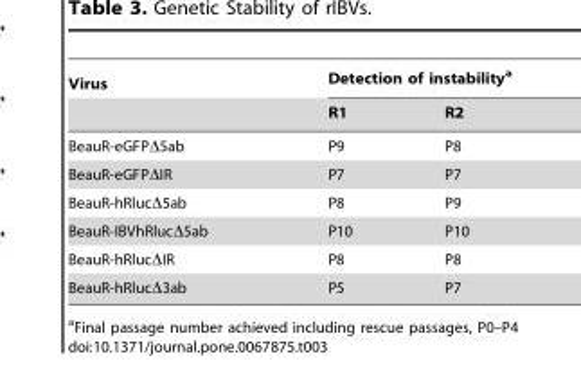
<table><thead><tr><td rowspan="2">Virus</td><td colspan="2">Detection of instability<sup>a</sup></td></tr><tr><td>R1</td><td>R2</td></tr></thead><tbody><tr><td>BeauR-eGFPΔ5ab</td><td>P9</td><td>P8</td></tr><tr><td>BeauR-eGFPΔIR</td><td>P7</td><td>P7</td></tr><tr><td>BeauR-hRlucΔ5ab</td><td>P8</td><td>P9</td></tr><tr><td>BeauR-IBVhRlucΔ5ab</td><td>P10</td><td>P10</td></tr><tr><td>BeauR-hRlucΔIR</td><td>P8</td><td>P8</td></tr><tr><td>BeauR-hRlucΔ3ab</td><td>P5</td><td>P7</td></tr></tbody></table>